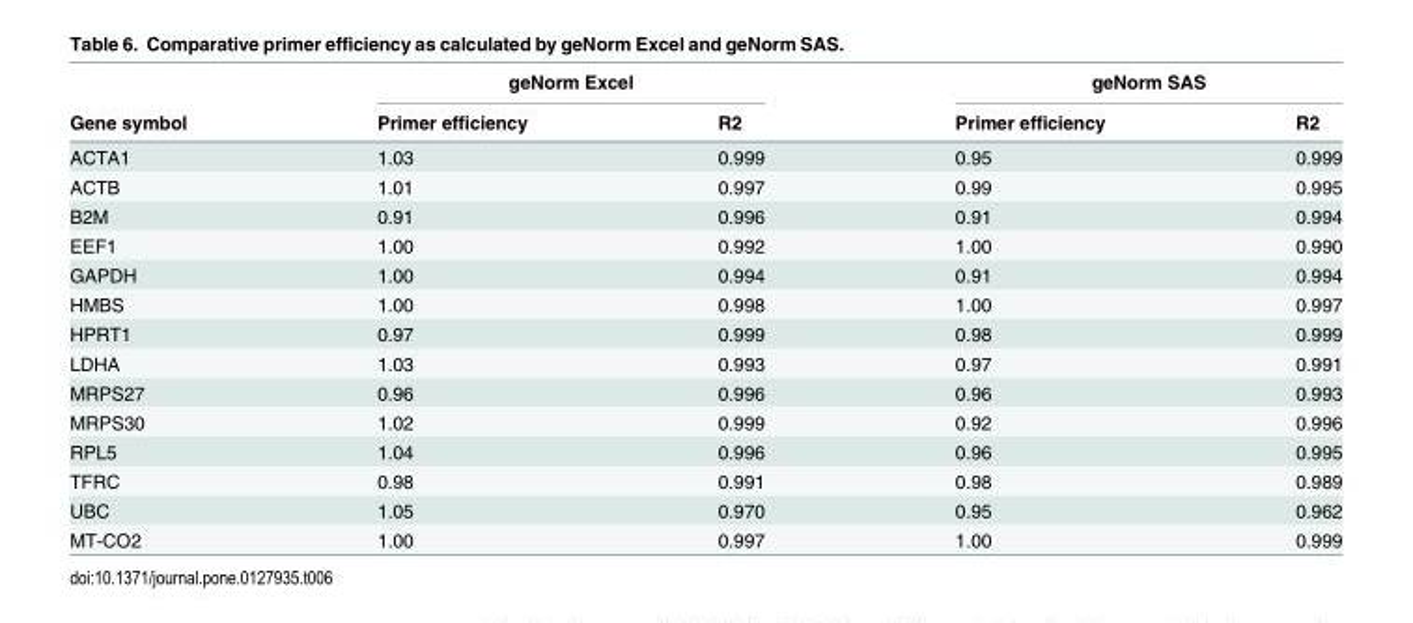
<table><thead><tr><td rowspan="2">Gene symbol</td><td colspan="2">geNorm Excel</td><td colspan="2">geNorm SAS</td></tr><tr><td>Primer efficiency</td><td>R2</td><td>Primer efficiency</td><td>R2</td></tr></thead><tbody><tr><td>ACTA1</td><td>1.03</td><td>0.999</td><td>0.95</td><td>0.999</td></tr><tr><td>ACTB</td><td>1.01</td><td>0.997</td><td>0.99</td><td>0.995</td></tr><tr><td>B2M</td><td>0.91</td><td>0.996</td><td>0.91</td><td>0.994</td></tr><tr><td>EEF1</td><td>1.00</td><td>0.992</td><td>1.00</td><td>0.990</td></tr><tr><td>GAPDH</td><td>1.00</td><td>0.994</td><td>0.91</td><td>0.994</td></tr><tr><td>HMBS</td><td>1.00</td><td>0.998</td><td>1.00</td><td>0.997</td></tr><tr><td>HPRT1</td><td>0.97</td><td>0.999</td><td>0.98</td><td>0.999</td></tr><tr><td>LDHA</td><td>1.03</td><td>0.993</td><td>0.97</td><td>0.991</td></tr><tr><td>MRPS27</td><td>0.96</td><td>0.996</td><td>0.96</td><td>0.993</td></tr><tr><td>MRPS30</td><td>1.02</td><td>0.999</td><td>0.92</td><td>0.996</td></tr><tr><td>RPL5</td><td>1.04</td><td>0.996</td><td>0.96</td><td>0.995</td></tr><tr><td>TFRC</td><td>0.98</td><td>0.991</td><td>0.98</td><td>0.989</td></tr><tr><td>UBC</td><td>1.05</td><td>0.970</td><td>0.95</td><td>0.962</td></tr><tr><td>MT-CO2</td><td>1.00</td><td>0.997</td><td>1.00</td><td>0.999</td></tr></tbody></table>